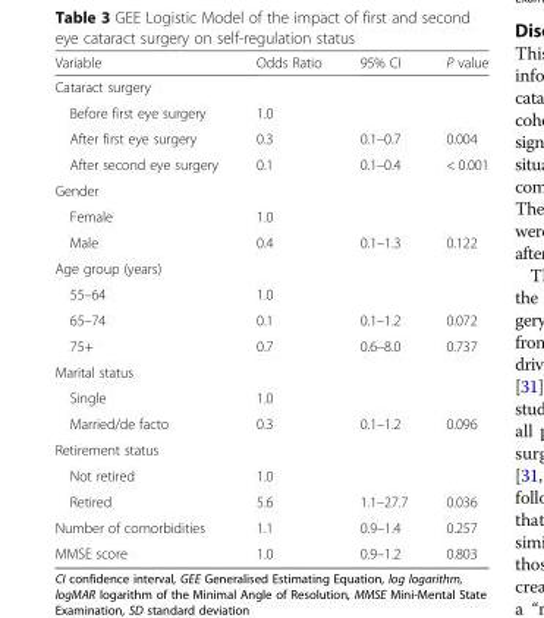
<table><thead><tr><td>Variable</td><td>Odds Ratio</td><td>95% CI</td><td>P value</td></tr></thead><tbody><tr><td colspan="4">Cataract surgery</td></tr><tr><td>Before first eye surgery</td><td>1.0</td><td></td><td></td></tr><tr><td>After first eye surgery</td><td>0.3</td><td>0.1–0.7</td><td>0.004</td></tr><tr><td>After second eye surgery</td><td>0.1</td><td>0.1–0.4</td><td>&lt; 0.001</td></tr><tr><td colspan="4">Gender</td></tr><tr><td>Female</td><td>1.0</td><td></td><td></td></tr><tr><td>Male</td><td>0.4</td><td>0.1–1.3</td><td>0.122</td></tr><tr><td colspan="4">Age group (years)</td></tr><tr><td>55–64</td><td>1.0</td><td></td><td></td></tr><tr><td>65–74</td><td>0.1</td><td>0.1–1.2</td><td>0.072</td></tr><tr><td>75+</td><td>0.7</td><td>0.6–8.0</td><td>0.737</td></tr><tr><td colspan="4">Marital status</td></tr><tr><td>Single</td><td>1.0</td><td></td><td></td></tr><tr><td>Married/de facto</td><td>0.3</td><td>0.1–1.2</td><td>0.096</td></tr><tr><td colspan="4">Retirement status</td></tr><tr><td>Not retired</td><td>1.0</td><td></td><td></td></tr><tr><td>Retired</td><td>5.6</td><td>1.1–27.7</td><td>0.036</td></tr><tr><td>Number of comorbidities</td><td>1.1</td><td>0.9–1.4</td><td>0.257</td></tr><tr><td>MMSE score</td><td>1.0</td><td>0.9–1.2</td><td>0.803</td></tr></tbody></table>